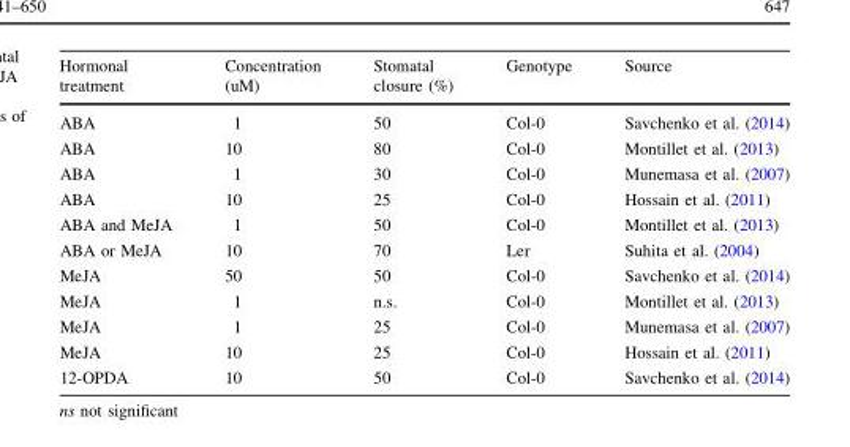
<table><thead><tr><td>Hormonal treatment</td><td>Concentration (uM)</td><td>Stomatal closure (%)</td><td>Genotype</td><td>Source</td></tr></thead><tbody><tr><td>ABA</td><td>1</td><td>50</td><td>Col-0</td><td>Savchenko et al. (2014)</td></tr><tr><td>ABA</td><td>10</td><td>80</td><td>Col-0</td><td>Montillet et al. (2013)</td></tr><tr><td>ABA</td><td>1</td><td>30</td><td>Col-0</td><td>Munemasa et al. (2007)</td></tr><tr><td>ABA</td><td>10</td><td>25</td><td>Col-0</td><td>Hossain et al. (2011)</td></tr><tr><td>ABA and MeJA</td><td>1</td><td>50</td><td>Col-0</td><td>Montillet et al. (2013)</td></tr><tr><td>ABA or MeJA</td><td>10</td><td>70</td><td>Ler</td><td>Suhita et al. (2004)</td></tr><tr><td>MeJA</td><td>50</td><td>50</td><td>Col-0</td><td>Savchenko et al. (2014)</td></tr><tr><td>MeJA</td><td>1</td><td>n.s.</td><td>Col-0</td><td>Montillet et al. (2013)</td></tr><tr><td>MeJA</td><td>1</td><td>25</td><td>Col-0</td><td>Munemasa et al. (2007)</td></tr><tr><td>MeJA</td><td>10</td><td>25</td><td>Col-0</td><td>Hossain et al. (2011)</td></tr><tr><td>12-OPDA</td><td>10</td><td>50</td><td>Col-0</td><td>Savchenko et al. (2014)</td></tr></tbody></table>